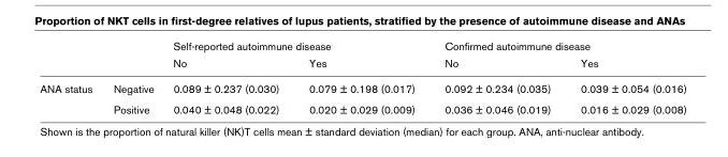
<table><thead><tr><td rowspan="2"></td><td rowspan="2"></td><td colspan="2">Self-reported autoimmune disease</td><td colspan="2">Confirmed autoimmune disease</td></tr><tr><td>No</td><td>Yes</td><td>No</td><td>Yes</td></tr></thead><tbody><tr><td rowspan="2">ANA status</td><td>Negative</td><td>0.089 ± 0.237 (0.030)</td><td>0.079 ± 0.198 (0.017)</td><td>0.092 ± 0.234 (0.035)</td><td>0.039 ± 0.054 (0.016)</td></tr><tr><td>Positive</td><td>0.040 ± 0.048 (0.022)</td><td>0.020 ± 0.029 (0.009)</td><td>0.036 ± 0.046 (0.019)</td><td>0.016 ± 0.029 (0.008)</td></tr></tbody></table>